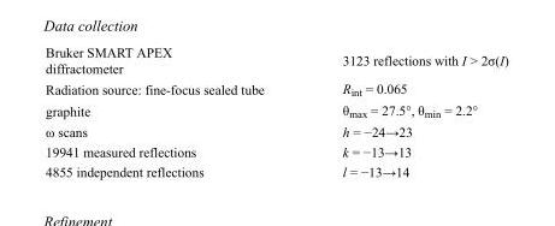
<table><tbody><tr><td>Bruker SMART APEX diffractometer</td><td>3123 reflections with I &gt; 2σ(I)</td></tr><tr><td>Radiation source: fine-focus sealed tube</td><td>R<sub>int</sub> = 0.065</td></tr><tr><td>graphite</td><td>θ<sub>max</sub> = 27.5°, θ<sub>min</sub> = 2.2°</td></tr><tr><td>ω scans</td><td>h = −24→23</td></tr><tr><td>19941 measured reflections</td><td>k = −13→13</td></tr><tr><td>4855 independent reflections</td><td>l = −13→14</td></tr></tbody></table>